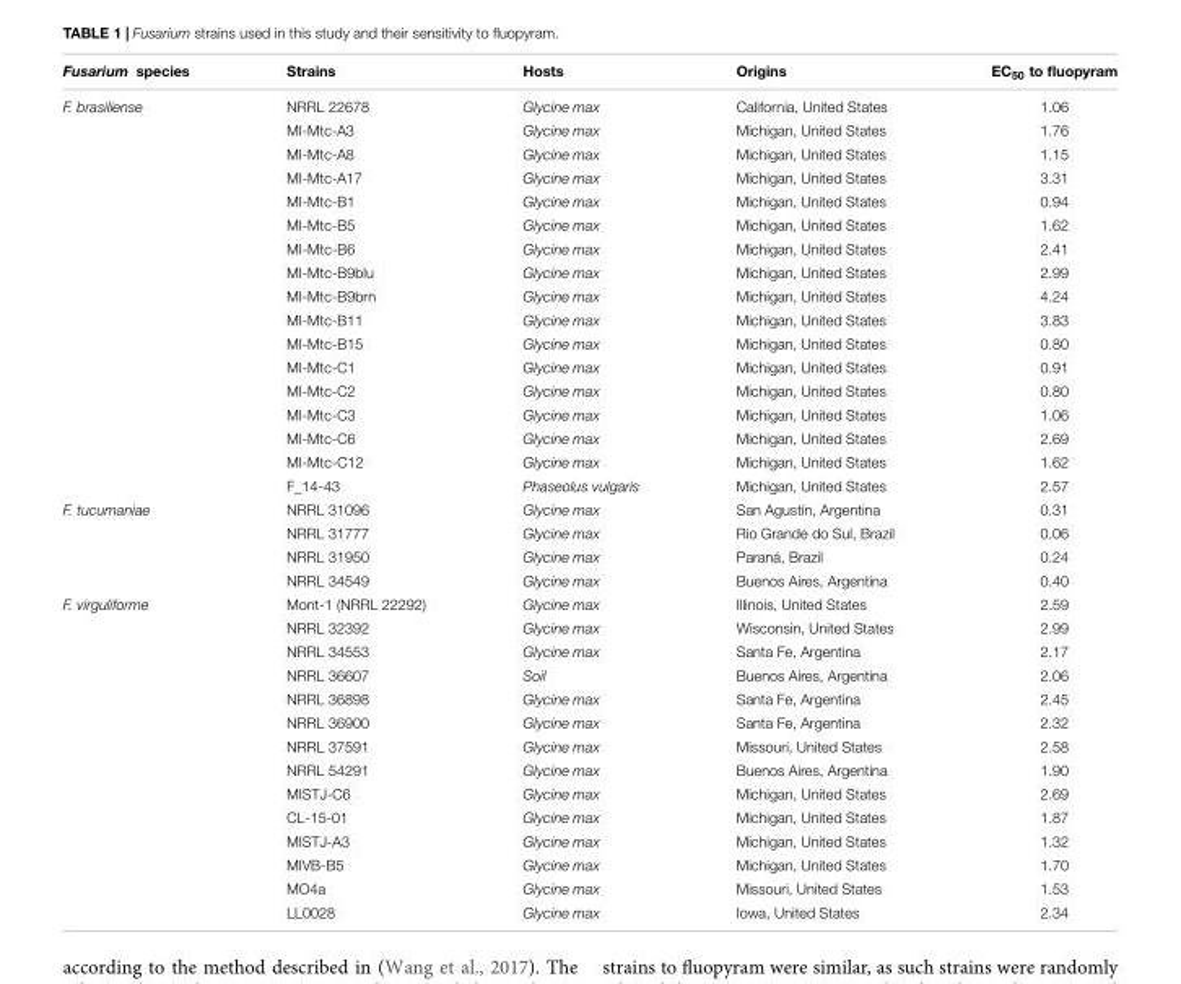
<table><thead><tr><td>Fusarium species</td><td>Strains</td><td>Hosts</td><td>Origins</td><td>EC<sub>50</sub> to fluopyram</td></tr></thead><tbody><tr><td rowspan="17">F. brasiliense</td><td>NRRL 22678</td><td>Glycine max</td><td>California, United States</td><td>1.06</td></tr><tr><td>MI-Mtc-A3</td><td>Glycine max</td><td>Michigan, United States</td><td>1.76</td></tr><tr><td>MI-Mtc-A8</td><td>Glycine max</td><td>Michigan, United States</td><td>1.15</td></tr><tr><td>MI-Mtc-A17</td><td>Glycine max</td><td>Michigan, United States</td><td>3.31</td></tr><tr><td>MI-Mtc-B1</td><td>Glycine max</td><td>Michigan, United States</td><td>0.94</td></tr><tr><td>MI-Mtc-B5</td><td>Glycine max</td><td>Michigan, United States</td><td>1.62</td></tr><tr><td>MI-Mtc-B6</td><td>Glycine max</td><td>Michigan, United States</td><td>2.41</td></tr><tr><td>MI-Mtc-B9blu</td><td>Glycine max</td><td>Michigan, United States</td><td>2.99</td></tr><tr><td>MI-Mtc-B9brn</td><td>Glycine max</td><td>Michigan, United States</td><td>4.24</td></tr><tr><td>MI-Mtc-B11</td><td>Glycine max</td><td>Michigan, United States</td><td>3.83</td></tr><tr><td>MI-Mtc-B15</td><td>Glycine max</td><td>Michigan, United States</td><td>0.80</td></tr><tr><td>MI-Mtc-C1</td><td>Glycine max</td><td>Michigan, United States</td><td>0.91</td></tr><tr><td>MI-Mtc-C2</td><td>Glycine max</td><td>Michigan, United States</td><td>0.80</td></tr><tr><td>MI-Mtc-C3</td><td>Glycine max</td><td>Michigan, United States</td><td>1.06</td></tr><tr><td>MI-Mtc-C6</td><td>Glycine max</td><td>Michigan, United States</td><td>2.69</td></tr><tr><td>MI-Mtc-C12</td><td>Glycine max</td><td>Michigan, United States</td><td>1.62</td></tr><tr><td>F_14-43</td><td>Phaseolus vulgaris</td><td>Michigan, United States</td><td>2.57</td></tr><tr><td rowspan="4">F. tucumaniae</td><td>NRRL 31096</td><td>Glycine max</td><td>San Agustín, Argentina</td><td>0.31</td></tr><tr><td>NRRL 31777</td><td>Glycine max</td><td>Rio Grande do Sul, Brazil</td><td>0.06</td></tr><tr><td>NRRL 31950</td><td>Glycine max</td><td>Paraná, Brazil</td><td>0.24</td></tr><tr><td>NRRL 34549</td><td>Glycine max</td><td>Buenos Aires, Argentina</td><td>0.40</td></tr><tr><td rowspan="14">F. virguliforme</td><td>Mont-1 (NRRL 22292)</td><td>Glycine max</td><td>Illinois, United States</td><td>2.59</td></tr><tr><td>NRRL 32392</td><td>Glycine max</td><td>Wisconsin, United States</td><td>2.99</td></tr><tr><td>NRRL 34553</td><td>Glycine max</td><td>Santa Fe, Argentina</td><td>2.17</td></tr><tr><td>NRRL 36607</td><td>Soil</td><td>Buenos Aires, Argentina</td><td>2.06</td></tr><tr><td>NRRL 36898</td><td>Glycine max</td><td>Santa Fe, Argentina</td><td>2.45</td></tr><tr><td>NRRL 36900</td><td>Glycine max</td><td>Santa Fe, Argentina</td><td>2.32</td></tr><tr><td>NRRL 37591</td><td>Glycine max</td><td>Missouri, United States</td><td>2.58</td></tr><tr><td>NRRL 54291</td><td>Glycine max</td><td>Buenos Aires, Argentina</td><td>1.90</td></tr><tr><td>MISTJ-C6</td><td>Glycine max</td><td>Michigan, United States</td><td>2.69</td></tr><tr><td>CL-15-01</td><td>Glycine max</td><td>Michigan, United States</td><td>1.87</td></tr><tr><td>MISTJ-A3</td><td>Glycine max</td><td>Michigan, United States</td><td>1.32</td></tr><tr><td>MIVB-B5</td><td>Glycine max</td><td>Michigan, United States</td><td>1.70</td></tr><tr><td>MO4a</td><td>Glycine max</td><td>Missouri, United States</td><td>1.53</td></tr><tr><td>LL0028</td><td>Glycine max</td><td>Iowa, United States</td><td>2.34</td></tr></tbody></table>